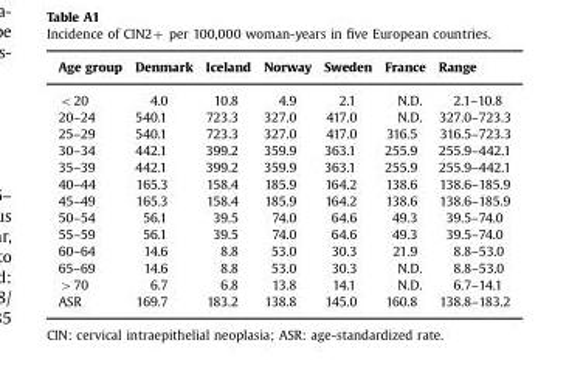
<table><thead><tr><td>Age group</td><td>Denmark</td><td>Iceland</td><td>Norway</td><td>Sweden</td><td>France</td><td>Range</td></tr></thead><tbody><tr><td>&lt;20</td><td>4.0</td><td>10.8</td><td>4.9</td><td>2.1</td><td>N.D.</td><td>2.1–10.8</td></tr><tr><td>20–24</td><td>540.1</td><td>723.3</td><td>327.0</td><td>417.0</td><td>N.D.</td><td>327.0–723.3</td></tr><tr><td>25–29</td><td>540.1</td><td>723.3</td><td>327.0</td><td>417.0</td><td>316.5</td><td>316.5–723.3</td></tr><tr><td>30–34</td><td>442.1</td><td>399.2</td><td>359.9</td><td>363.1</td><td>255.9</td><td>255.9–442.1</td></tr><tr><td>35–39</td><td>442.1</td><td>399.2</td><td>359.9</td><td>363.1</td><td>255.9</td><td>255.9–442.1</td></tr><tr><td>40–44</td><td>165.3</td><td>158.4</td><td>185.9</td><td>164.2</td><td>138.6</td><td>138.6–185.9</td></tr><tr><td>45–49</td><td>165.3</td><td>158.4</td><td>185.9</td><td>164.2</td><td>138.6</td><td>138.6–185.9</td></tr><tr><td>50–54</td><td>56.1</td><td>39.5</td><td>74.0</td><td>64.6</td><td>49.3</td><td>39.5–74.0</td></tr><tr><td>55–59</td><td>56.1</td><td>39.5</td><td>74.0</td><td>64.6</td><td>49.3</td><td>39.5–74.0</td></tr><tr><td>60–64</td><td>14.6</td><td>8.8</td><td>53.0</td><td>30.3</td><td>21.9</td><td>8.8–53.0</td></tr><tr><td>65–69</td><td>14.6</td><td>8.8</td><td>53.0</td><td>30.3</td><td>N.D.</td><td>8.8–53.0</td></tr><tr><td>&gt;70</td><td>6.7</td><td>6.8</td><td>13.8</td><td>14.1</td><td>N.D.</td><td>6.7–14.1</td></tr><tr><td>ASR</td><td>169.7</td><td>183.2</td><td>138.8</td><td>145.0</td><td>160.8</td><td>138.8–183.2</td></tr></tbody></table>